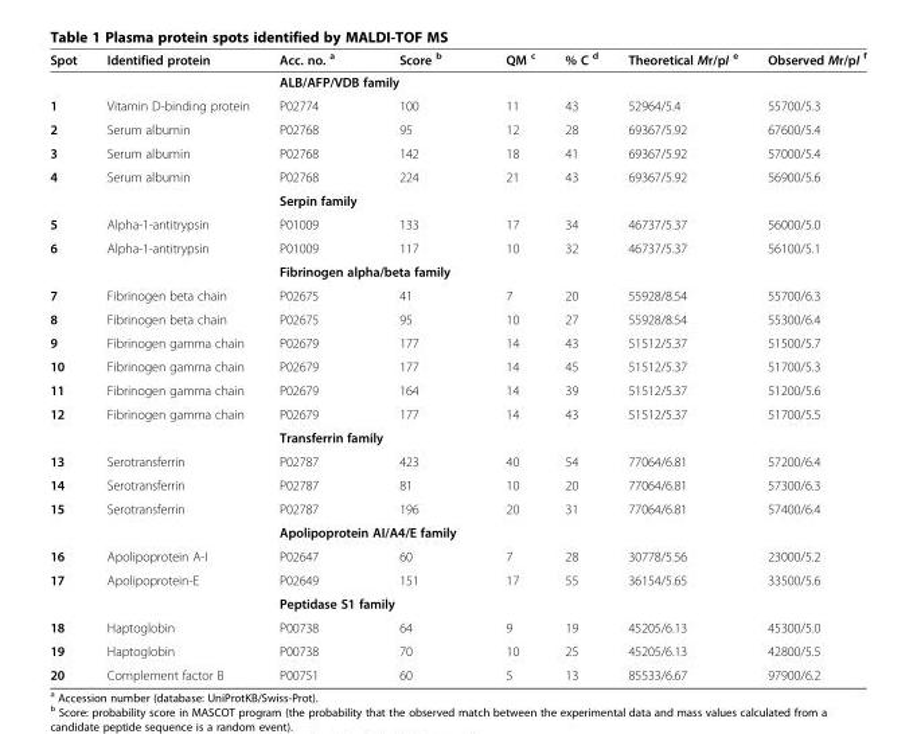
<table><thead><tr><td>Spot</td><td>Identified protein</td><td>Acc. no. <sup>a</sup></td><td>Score <sup>b</sup></td><td>QM <sup>c</sup></td><td>% C <sup>d</sup></td><td>Theoretical Mr/pI <sup>e</sup></td><td>Observed Mr/pI <sup>f</sup></td></tr></thead><tbody><tr><td></td><td></td><td colspan="2">ALB/AFP/VDB family</td><td></td><td></td><td></td><td></td></tr><tr><td>1</td><td>Vitamin D-binding protein</td><td>P02774</td><td>100</td><td>11</td><td>43</td><td>52964/5.4</td><td>55700/5.3</td></tr><tr><td>2</td><td>Serum albumin</td><td>P02768</td><td>95</td><td>12</td><td>28</td><td>69367/5.92</td><td>67600/5.4</td></tr><tr><td>3</td><td>Serum albumin</td><td>P02768</td><td>142</td><td>18</td><td>41</td><td>69367/5.92</td><td>57000/5.4</td></tr><tr><td rowspan="2">4</td><td>Serum albumin</td><td>P02768</td><td>224</td><td>21</td><td>43</td><td>69367/5.92</td><td>56900/5.6</td></tr><tr><td></td><td colspan="2">Serpin family</td><td></td><td></td><td></td><td></td></tr><tr><td>5</td><td>Alpha-1-antitrypsin</td><td>P01009</td><td>133</td><td>17</td><td>34</td><td>46737/5.37</td><td>56000/5.0</td></tr><tr><td rowspan="2">6</td><td>Alpha-1-antitrypsin</td><td>P01009</td><td>117</td><td>10</td><td>32</td><td>46737/5.37</td><td>56100/5.1</td></tr><tr><td></td><td colspan="2">Fibrinogen alpha/beta family</td><td></td><td></td><td></td><td></td></tr><tr><td>7</td><td>Fibrinogen beta chain</td><td>P02675</td><td>41</td><td>7</td><td>20</td><td>55928/8.54</td><td>55700/6.3</td></tr><tr><td>8</td><td>Fibrinogen beta chain</td><td>P02675</td><td>95</td><td>10</td><td>27</td><td>55928/8.54</td><td>55300/6.4</td></tr><tr><td>9</td><td>Fibrinogen gamma chain</td><td>P02679</td><td>177</td><td>14</td><td>43</td><td>51512/5.37</td><td>51500/5.7</td></tr><tr><td>10</td><td>Fibrinogen gamma chain</td><td>P02679</td><td>177</td><td>14</td><td>45</td><td>51512/5.37</td><td>51700/5.3</td></tr><tr><td>11</td><td>Fibrinogen gamma chain</td><td>P02679</td><td>164</td><td>14</td><td>39</td><td>51512/5.37</td><td>51200/5.6</td></tr><tr><td rowspan="2">12</td><td>Fibrinogen gamma chain</td><td>P02679</td><td>177</td><td>14</td><td>43</td><td>51512/5.37</td><td>51700/5.5</td></tr><tr><td></td><td colspan="2">Transferrin family</td><td></td><td></td><td></td><td></td></tr><tr><td>13</td><td>Serotransferrin</td><td>P02787</td><td>423</td><td>40</td><td>54</td><td>77064/6.81</td><td>57200/6.4</td></tr><tr><td>14</td><td>Serotransferrin</td><td>P02787</td><td>81</td><td>10</td><td>20</td><td>77064/6.81</td><td>57300/6.3</td></tr><tr><td rowspan="2">15</td><td>Serotransferrin</td><td>P02787</td><td>196</td><td>20</td><td>31</td><td>77064/6.81</td><td>57400/6.4</td></tr><tr><td></td><td colspan="2">Apolipoprotein AI/A4/E family</td><td></td><td></td><td></td><td></td></tr><tr><td>16</td><td>Apolipoprotein A-I</td><td>P02647</td><td>60</td><td>7</td><td>28</td><td>30778/5.56</td><td>23000/5.2</td></tr><tr><td rowspan="2">17</td><td>Apolipoprotein-E</td><td>P02649</td><td>151</td><td>17</td><td>55</td><td>36154/5.65</td><td>33500/5.6</td></tr><tr><td></td><td colspan="2">Peptidase S1 family</td><td></td><td></td><td></td><td></td></tr><tr><td>18</td><td>Haptoglobin</td><td>P00738</td><td>64</td><td>9</td><td>19</td><td>45205/6.13</td><td>45300/5.0</td></tr><tr><td>19</td><td>Haptoglobin</td><td>P00738</td><td>70</td><td>10</td><td>25</td><td>45205/6.13</td><td>42800/5.5</td></tr><tr><td>20</td><td>Complement factor B</td><td>P00751</td><td>60</td><td>5</td><td>13</td><td>85533/6.67</td><td>97900/6.2</td></tr></tbody></table>